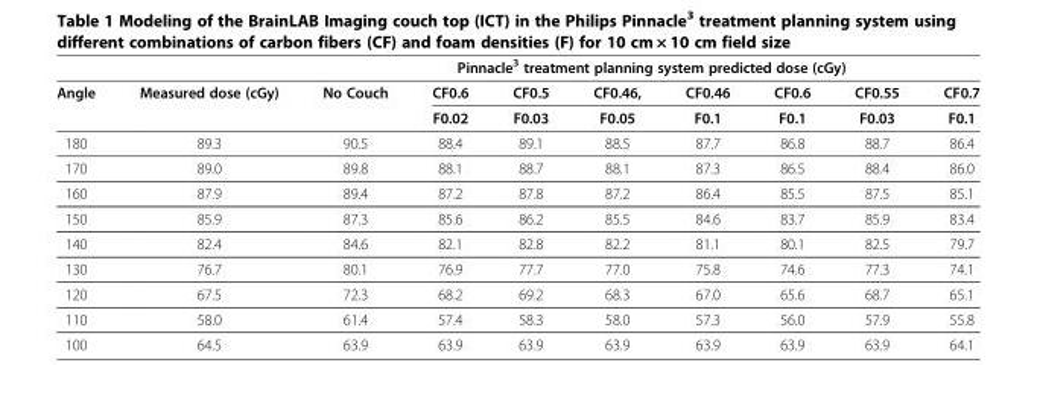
<table><thead><tr><td rowspan="2">Angle</td><td rowspan="2">Measured dose (cGy)</td><td colspan="8">Pinnacle<sup>3</sup> treatment planning system predicted dose (cGy)</td></tr><tr><td>No Couch</td><td>CF0.6</td><td>CF0.5</td><td>CF0.46,</td><td>CF0.46</td><td>CF0.6</td><td>CF0.55</td><td>CF0.7</td></tr></thead><tbody><tr><td></td><td></td><td></td><td>F0.02</td><td>F0.03</td><td>F0.05</td><td>F0.1</td><td>F0.1</td><td>F0.03</td><td>F0.1</td></tr><tr><td>180</td><td>89.3</td><td>90.5</td><td>88.4</td><td>89.1</td><td>88.5</td><td>87.7</td><td>86.8</td><td>88.7</td><td>86.4</td></tr><tr><td>170</td><td>89.0</td><td>89.8</td><td>88.1</td><td>88.7</td><td>88.1</td><td>87.3</td><td>86.5</td><td>88.4</td><td>86.0</td></tr><tr><td>160</td><td>87.9</td><td>89.4</td><td>87.2</td><td>87.8</td><td>87.2</td><td>86.4</td><td>85.5</td><td>87.5</td><td>85.1</td></tr><tr><td>150</td><td>85.9</td><td>87.3</td><td>85.6</td><td>86.2</td><td>85.5</td><td>84.6</td><td>83.7</td><td>85.9</td><td>83.4</td></tr><tr><td>140</td><td>82.4</td><td>84.6</td><td>82.1</td><td>82.8</td><td>82.2</td><td>81.1</td><td>80.1</td><td>82.5</td><td>79.7</td></tr><tr><td>130</td><td>76.7</td><td>80.1</td><td>76.9</td><td>77.7</td><td>77.0</td><td>75.8</td><td>74.6</td><td>77.3</td><td>74.1</td></tr><tr><td>120</td><td>67.5</td><td>72.3</td><td>68.2</td><td>69.2</td><td>68.3</td><td>67.0</td><td>65.6</td><td>68.7</td><td>65.1</td></tr><tr><td>110</td><td>58.0</td><td>61.4</td><td>57.4</td><td>58.3</td><td>58.0</td><td>57.3</td><td>56.0</td><td>57.9</td><td>55.8</td></tr><tr><td>100</td><td>64.5</td><td>63.9</td><td>63.9</td><td>63.9</td><td>63.9</td><td>63.9</td><td>63.9</td><td>63.9</td><td>64.1</td></tr></tbody></table>